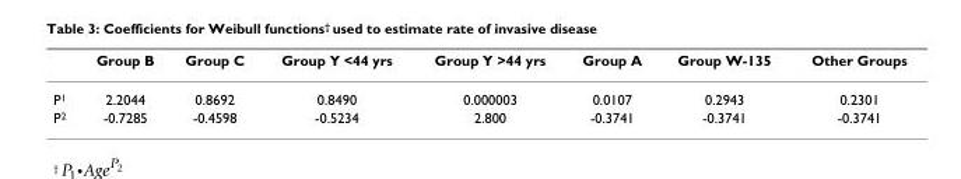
<table><thead><tr><td></td><td>Group B</td><td>Group C</td><td>Group Y &lt;44 yrs</td><td>Group Y &gt;44 yrs</td><td>Group A</td><td>Group W-135</td><td>Other Groups</td></tr></thead><tbody><tr><td>P<sup>1</sup></td><td>2.2044</td><td>0.8692</td><td>0.8490</td><td>0.000003</td><td>0.0107</td><td>0.2943</td><td>0.2301</td></tr><tr><td>P<sup>2</sup></td><td>-0.7285</td><td>-0.4598</td><td>-0.5234</td><td>2.800</td><td>-0.3741</td><td>-0.3741</td><td>-0.3741</td></tr></tbody></table>